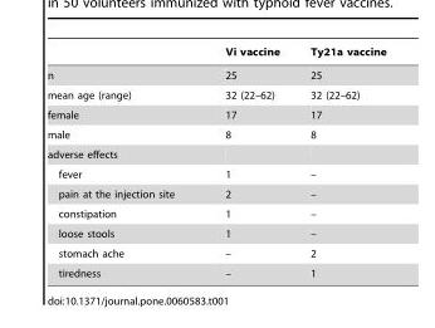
<table><thead><tr><td></td><td>Vi vaccine</td><td>Ty21a vaccine</td></tr></thead><tbody><tr><td>n</td><td>25</td><td>25</td></tr><tr><td>mean age (range)</td><td>32 (22–62)</td><td>32 (22–62)</td></tr><tr><td>female</td><td>17</td><td>17</td></tr><tr><td>male</td><td>8</td><td>8</td></tr><tr><td colspan="3">adverse effects</td></tr><tr><td>fever</td><td>1</td><td>–</td></tr><tr><td>pain at the injection site</td><td>2</td><td>–</td></tr><tr><td>constipation</td><td>1</td><td>–</td></tr><tr><td>loose stools</td><td>1</td><td>–</td></tr><tr><td>stomach ache</td><td>–</td><td>2</td></tr><tr><td>tiredness</td><td>–</td><td>1</td></tr></tbody></table>